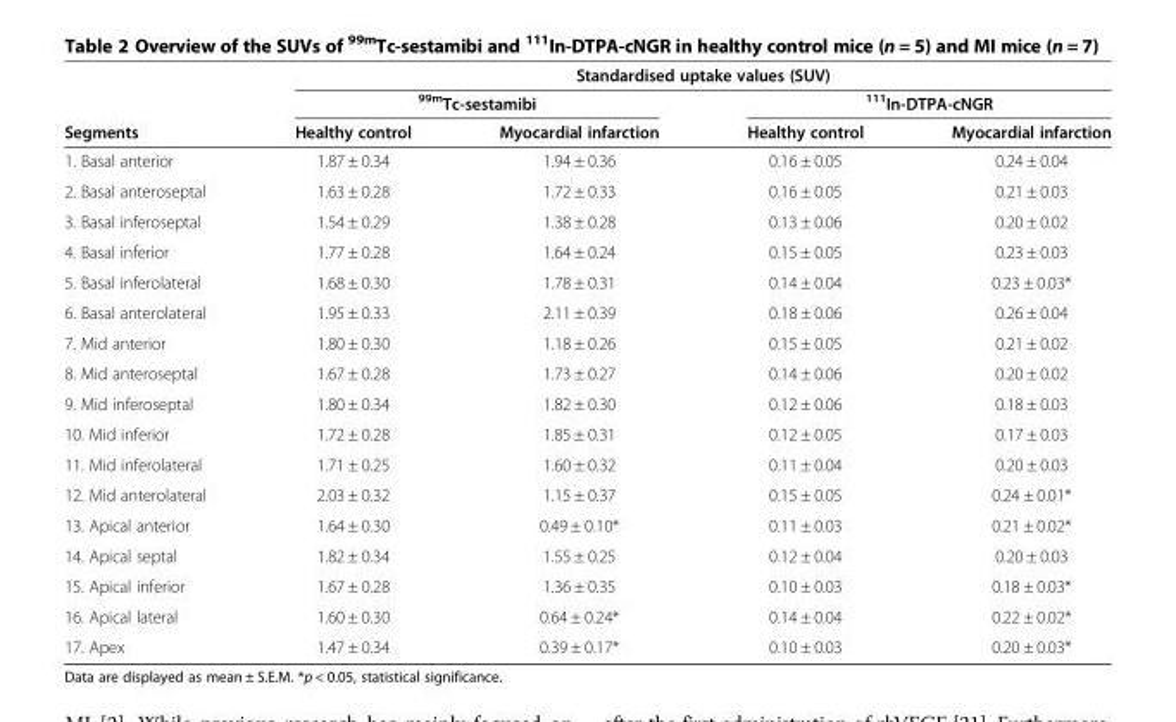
<table><thead><tr><td rowspan="3">Segments</td><td colspan="4">Standardised uptake values (SUV)</td></tr><tr><td colspan="2"><sup>99m</sup>Tc-sestamibi</td><td colspan="2"><sup>111</sup>In-DTPA-cNGR</td></tr><tr><td>Healthy control</td><td>Myocardial infarction</td><td>Healthy control</td><td>Myocardial infarction</td></tr></thead><tbody><tr><td>1. Basal anterior</td><td>1.87 ± 0.34</td><td>1.94 ± 0.36</td><td>0.16 ± 0.05</td><td>0.24 ± 0.04</td></tr><tr><td>2. Basal anteroseptal</td><td>1.63 ± 0.28</td><td>1.72 ± 0.33</td><td>0.16 ± 0.05</td><td>0.21 ± 0.03</td></tr><tr><td>3. Basal inferoseptal</td><td>1.54 ± 0.29</td><td>1.38 ± 0.28</td><td>0.13 ± 0.06</td><td>0.20 ± 0.02</td></tr><tr><td>4. Basal inferior</td><td>1.77 ± 0.28</td><td>1.64 ± 0.24</td><td>0.15 ± 0.05</td><td>0.23 ± 0.03</td></tr><tr><td>5. Basal inferolateral</td><td>1.68 ± 0.30</td><td>1.78 ± 0.31</td><td>0.14 ± 0.04</td><td>0.23 ± 0.03*</td></tr><tr><td>6. Basal anterolateral</td><td>1.95 ± 0.33</td><td>2.11 ± 0.39</td><td>0.18 ± 0.06</td><td>0.26 ± 0.04</td></tr><tr><td>7. Mid anterior</td><td>1.80 ± 0.30</td><td>1.18 ± 0.26</td><td>0.15 ± 0.05</td><td>0.21 ± 0.02</td></tr><tr><td>8. Mid anteroseptal</td><td>1.67 ± 0.28</td><td>1.73 ± 0.27</td><td>0.14 ± 0.06</td><td>0.20 ± 0.02</td></tr><tr><td>9. Mid inferoseptal</td><td>1.80 ± 0.34</td><td>1.82 ± 0.30</td><td>0.12 ± 0.06</td><td>0.18 ± 0.03</td></tr><tr><td>10. Mid inferior</td><td>1.72 ± 0.28</td><td>1.85 ± 0.31</td><td>0.12 ± 0.05</td><td>0.17 ± 0.03</td></tr><tr><td>11. Mid inferolateral</td><td>1.71 ± 0.25</td><td>1.60 ± 0.32</td><td>0.11 ± 0.04</td><td>0.20 ± 0.03</td></tr><tr><td>12. Mid anterolateral</td><td>2.03 ± 0.32</td><td>1.15 ± 0.37</td><td>0.15 ± 0.05</td><td>0.24 ± 0.01*</td></tr><tr><td>13. Apical anterior</td><td>1.64 ± 0.30</td><td>0.49 ± 0.10*</td><td>0.11 ± 0.03</td><td>0.21 ± 0.02*</td></tr><tr><td>14. Apical septal</td><td>1.82 ± 0.34</td><td>1.55 ± 0.25</td><td>0.12 ± 0.04</td><td>0.20 ± 0.03</td></tr><tr><td>15. Apical inferior</td><td>1.67 ± 0.28</td><td>1.36 ± 0.35</td><td>0.10 ± 0.03</td><td>0.18 ± 0.03*</td></tr><tr><td>16. Apical lateral</td><td>1.60 ± 0.30</td><td>0.64 ± 0.24*</td><td>0.14 ± 0.04</td><td>0.22 ± 0.02*</td></tr><tr><td>17. Apex</td><td>1.47 ± 0.34</td><td>0.39 ± 0.17*</td><td>0.10 ± 0.03</td><td>0.20 ± 0.03*</td></tr></tbody></table>